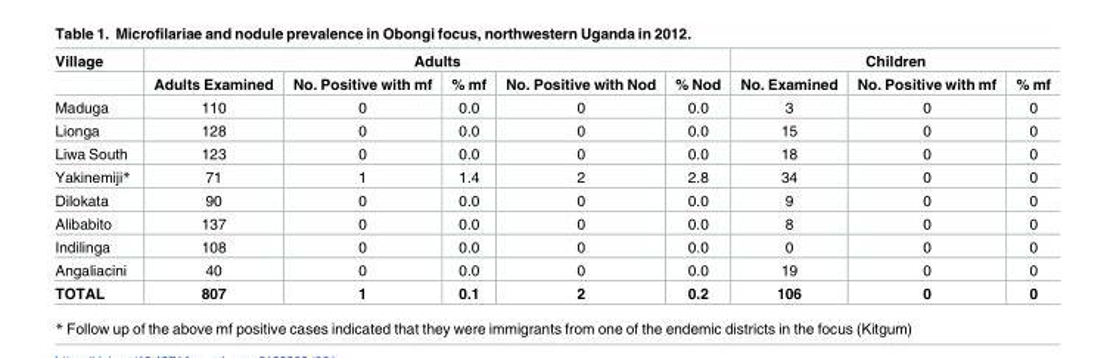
<table><thead><tr><td rowspan="2">Village</td><td colspan="5">Adults</td><td colspan="3">Children</td></tr><tr><td>Adults Examined</td><td>No. Positive with mf</td><td>% mf</td><td>No. Positive with Nod</td><td>% Nod</td><td>No. Examined</td><td>No. Positive with mf</td><td>% mf</td></tr></thead><tbody><tr><td>Maduga</td><td>110</td><td>0</td><td>0.0</td><td>0</td><td>0.0</td><td>3</td><td>0</td><td>0</td></tr><tr><td>Lionga</td><td>128</td><td>0</td><td>0.0</td><td>0</td><td>0.0</td><td>15</td><td>0</td><td>0</td></tr><tr><td>Liwa South</td><td>123</td><td>0</td><td>0.0</td><td>0</td><td>0.0</td><td>18</td><td>0</td><td>0</td></tr><tr><td>Yakinemiji*</td><td>71</td><td>1</td><td>1.4</td><td>2</td><td>2.8</td><td>34</td><td>0</td><td>0</td></tr><tr><td>Dilokata</td><td>90</td><td>0</td><td>0.0</td><td>0</td><td>0.0</td><td>9</td><td>0</td><td>0</td></tr><tr><td>Alibabito</td><td>137</td><td>0</td><td>0.0</td><td>0</td><td>0.0</td><td>8</td><td>0</td><td>0</td></tr><tr><td>Indilinga</td><td>108</td><td>0</td><td>0.0</td><td>0</td><td>0.0</td><td>0</td><td>0</td><td>0</td></tr><tr><td>Angaliacini</td><td>40</td><td>0</td><td>0.0</td><td>0</td><td>0.0</td><td>19</td><td>0</td><td>0</td></tr><tr><td>TOTAL</td><td>807</td><td>1</td><td>0.1</td><td>2</td><td>0.2</td><td>106</td><td>0</td><td>0</td></tr></tbody></table>